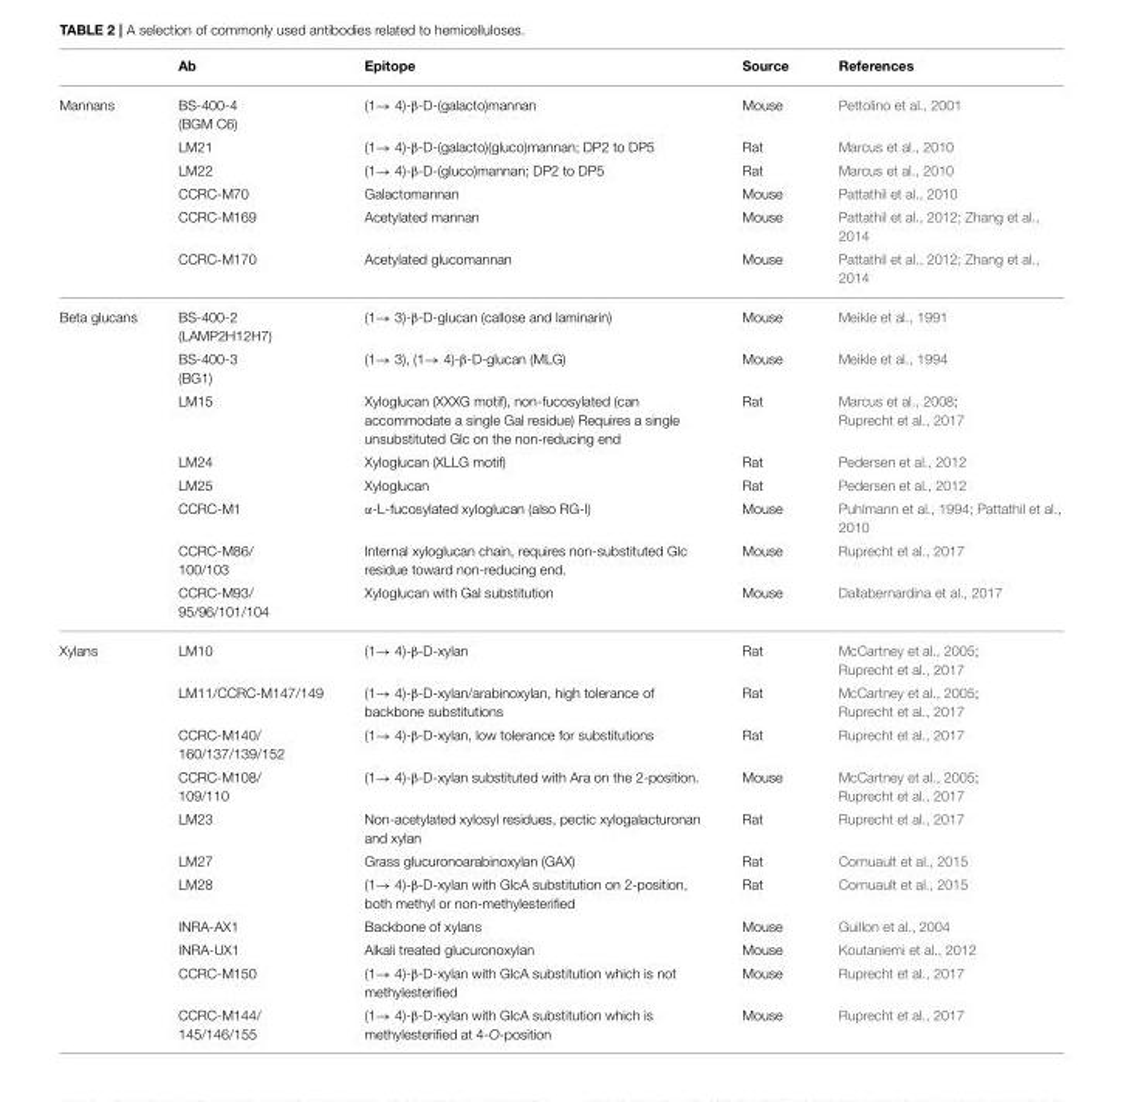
<table><thead><tr><td></td><td>Ab</td><td>Epitope</td><td>Source</td><td>References</td></tr></thead><tbody><tr><td rowspan="6">Mannans</td><td>BS-400-4 (BGM C6)</td><td>(1→ 4)-β-D-(galacto)mannan</td><td>Mouse</td><td>Pettolino et al., 2001</td></tr><tr><td>LM21</td><td>(1→ 4)-β-D-(galacto)(gluco)mannan; DP2 to DP5</td><td>Rat</td><td>Marcus et al., 2010</td></tr><tr><td>LM22</td><td>(1→ 4)-β-D-(gluco)mannan; DP2 to DP5</td><td>Rat</td><td>Marcus et al., 2010</td></tr><tr><td>CCRC-M70</td><td>Galactomannan</td><td>Mouse</td><td>Pattathil et al., 2010</td></tr><tr><td>CCRC-M169</td><td>Acetylated mannan</td><td>Mouse</td><td>Pattathil et al., 2012; Zhang et al., 2014</td></tr><tr><td>CCRC-M170</td><td>Acetylated glucomannan</td><td>Mouse</td><td>Pattathil et al., 2012; Zhang et al., 2014</td></tr><tr><td rowspan="8">Beta glucans</td><td>BS-400-2 (LAMP2H12H7)</td><td>(1→ 3)-β-D-glucan (callose and laminarin)</td><td>Mouse</td><td>Meikle et al., 1991</td></tr><tr><td>BS-400-3 (BG1)</td><td>(1→ 3), (1→ 4)-β-D-glucan (MLG)</td><td>Mouse</td><td>Meikle et al., 1994</td></tr><tr><td>LM15</td><td>Xyloglucan (XXXG motif), non-fucosylated (can accommodate a single Gal residue) Requires a single unsubstituted Glc on the non-reducing end</td><td>Rat</td><td>Marcus et al., 2008; Ruprecht et al., 2017</td></tr><tr><td>LM24</td><td>Xyloglucan (XLLG motif)</td><td>Rat</td><td>Pedersen et al., 2012</td></tr><tr><td>LM25</td><td>Xyloglucan</td><td>Rat</td><td>Pedersen et al., 2012</td></tr><tr><td>CCRC-M1</td><td>α-L-fucosylated xyloglucan (also RG-I)</td><td>Mouse</td><td>Puhlmann et al., 1994; Pattathil et al., 2010</td></tr><tr><td>CCRC-M86/ 100/103</td><td>Internal xyloglucan chain, requires non-substituted Glc residue toward non-reducing end.</td><td>Mouse</td><td>Ruprecht et al., 2017</td></tr><tr><td>CCRC-M93/ 95/96/101/104</td><td>Xyloglucan with Gal substitution</td><td>Mouse</td><td>Dallabernardina et al., 2017</td></tr><tr><td rowspan="11">Xylans</td><td>LM10</td><td>(1→ 4)-β-D-xylan</td><td>Rat</td><td>McCartney et al., 2005; Ruprecht et al., 2017</td></tr><tr><td>LM11/CCRC-M147/149</td><td>(1→ 4)-β-D-xylan/arabinoxylan, high tolerance of backbone substitutions</td><td>Rat</td><td>McCartney et al., 2005; Ruprecht et al., 2017</td></tr><tr><td>CCRC-M140/ 160/137/139/152</td><td>(1→ 4)-β-D-xylan, low tolerance for substitutions</td><td>Rat</td><td>Ruprecht et al., 2017</td></tr><tr><td>CCRC-M108/ 109/110</td><td>(1→ 4)-β-D-xylan substituted with Ara on the 2-position.</td><td>Mouse</td><td>McCartney et al., 2005; Ruprecht et al., 2017</td></tr><tr><td>LM23</td><td>Non-acetylated xylosyl residues, pectic xylogalacturonan and xylan</td><td>Rat</td><td>Ruprecht et al., 2017</td></tr><tr><td>LM27</td><td>Grass glucuronoarabinoxylan (GAX)</td><td>Rat</td><td>Cornuault et al., 2015</td></tr><tr><td>LM28</td><td>(1→ 4)-β-D-xylan with GlcA substitution on 2-position, both methyl or non-methylesterified</td><td>Rat</td><td>Cornuault et al., 2015</td></tr><tr><td>INRA-AX1</td><td>Backbone of xylans</td><td>Mouse</td><td>Guillon et al., 2004</td></tr><tr><td>INRA-UX1</td><td>Alkali treated glucuronoxylan</td><td>Mouse</td><td>Koutaniemi et al., 2012</td></tr><tr><td>CCRC-M150</td><td>(1→ 4)-β-D-xylan with GlcA substitution which is not methylesterified</td><td>Mouse</td><td>Ruprecht et al., 2017</td></tr><tr><td>CCRC-M144/ 145/146/155</td><td>(1→ 4)-β-D-xylan with GlcA substitution which is methylesterified at 4-O-position</td><td>Mouse</td><td>Ruprecht et al., 2017</td></tr></tbody></table>